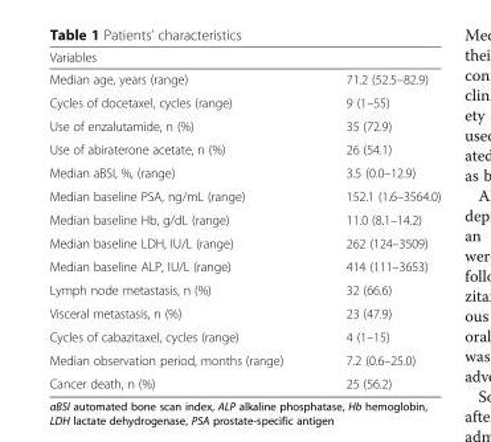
<table><thead><tr><td>Variables</td><td></td></tr></thead><tbody><tr><td>Median age, years (range)</td><td>71.2 (52.5–82.9)</td></tr><tr><td>Cycles of docetaxel, cycles (range)</td><td>9 (1–55)</td></tr><tr><td>Use of enzalutamide, n (%)</td><td>35 (72.9)</td></tr><tr><td>Use of abiraterone acetate, n (%)</td><td>26 (54.1)</td></tr><tr><td>Median aBSI, %, (range)</td><td>3.5 (0.0–12.9)</td></tr><tr><td>Median baseline PSA, ng/mL (range)</td><td>152.1 (1.6–3564.0)</td></tr><tr><td>Median baseline Hb, g/dL (range)</td><td>11.0 (8.1–14.2)</td></tr><tr><td>Median baseline LDH, IU/L (range)</td><td>262 (124–3509)</td></tr><tr><td>Median baseline ALP, IU/L (range)</td><td>414 (111–3653)</td></tr><tr><td>Lymph node metastasis, n (%)</td><td>32 (66.6)</td></tr><tr><td>Visceral metastasis, n (%)</td><td>23 (47.9)</td></tr><tr><td>Cycles of cabazitaxel, cycles (range)</td><td>4 (1–15)</td></tr><tr><td>Median observation period, months (range)</td><td>7.2 (0.6–25.0)</td></tr><tr><td>Cancer death, n (%)</td><td>25 (56.2)</td></tr></tbody></table>